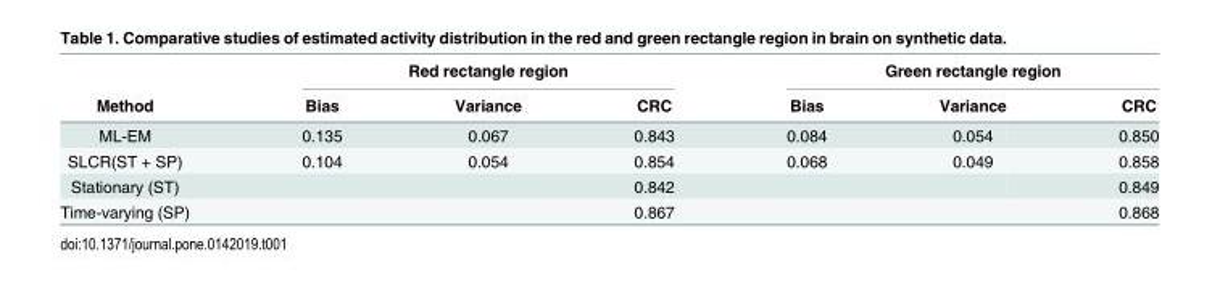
<table><thead><tr><td rowspan="2">Method</td><td colspan="3">Red rectangle region</td><td colspan="3">Green rectangle region</td></tr><tr><td>Bias</td><td>Variance</td><td>CRC</td><td>Bias</td><td>Variance</td><td>CRC</td></tr></thead><tbody><tr><td>ML-EM</td><td>0.135</td><td>0.067</td><td>0.843</td><td>0.084</td><td>0.054</td><td>0.850</td></tr><tr><td>SLCR(ST + SP)</td><td>0.104</td><td>0.054</td><td>0.854</td><td>0.068</td><td>0.049</td><td>0.858</td></tr><tr><td>Stationary (ST)</td><td></td><td></td><td>0.842</td><td></td><td></td><td>0.849</td></tr><tr><td>Time-varying (SP)</td><td></td><td></td><td>0.867</td><td></td><td></td><td>0.868</td></tr></tbody></table>